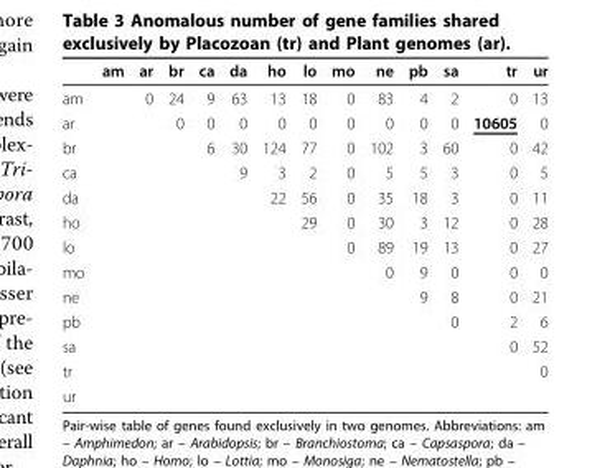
<table><thead><tr><td></td><td>am</td><td>ar</td><td>br</td><td>ca</td><td>da</td><td>ho</td><td>lo</td><td>mo</td><td>ne</td><td>pb</td><td>sa</td><td>tr</td><td>ur</td></tr></thead><tbody><tr><td>am</td><td></td><td>0</td><td>24</td><td>9</td><td>63</td><td>13</td><td>18</td><td>0</td><td>83</td><td>4</td><td>2</td><td>0</td><td>13</td></tr><tr><td>ar</td><td></td><td></td><td>0</td><td>0</td><td>0</td><td>0</td><td>0</td><td>0</td><td>0</td><td>0</td><td>0</td><td>10605</td><td>0</td></tr><tr><td>br</td><td></td><td></td><td></td><td>6</td><td>30</td><td>124</td><td>77</td><td>0</td><td>102</td><td>3</td><td>60</td><td>0</td><td>42</td></tr><tr><td>ca</td><td></td><td></td><td></td><td></td><td>9</td><td>3</td><td>2</td><td>0</td><td>5</td><td>5</td><td>3</td><td>0</td><td>5</td></tr><tr><td>da</td><td></td><td></td><td></td><td></td><td></td><td>22</td><td>56</td><td>0</td><td>35</td><td>18</td><td>3</td><td>0</td><td>11</td></tr><tr><td>ho</td><td></td><td></td><td></td><td></td><td></td><td></td><td>29</td><td>0</td><td>30</td><td>3</td><td>12</td><td>0</td><td>28</td></tr><tr><td>lo</td><td></td><td></td><td></td><td></td><td></td><td></td><td></td><td>0</td><td>89</td><td>19</td><td>13</td><td>0</td><td>27</td></tr><tr><td>mo</td><td></td><td></td><td></td><td></td><td></td><td></td><td></td><td></td><td>0</td><td>9</td><td>0</td><td>0</td><td>0</td></tr><tr><td>ne</td><td></td><td></td><td></td><td></td><td></td><td></td><td></td><td></td><td></td><td>9</td><td>8</td><td>0</td><td>21</td></tr><tr><td>pb</td><td></td><td></td><td></td><td></td><td></td><td></td><td></td><td></td><td></td><td></td><td>0</td><td>2</td><td>6</td></tr><tr><td>sa</td><td></td><td></td><td></td><td></td><td></td><td></td><td></td><td></td><td></td><td></td><td></td><td>0</td><td>52</td></tr><tr><td>tr</td><td></td><td></td><td></td><td></td><td></td><td></td><td></td><td></td><td></td><td></td><td></td><td></td><td>0</td></tr><tr><td>ur</td><td></td><td></td><td></td><td></td><td></td><td></td><td></td><td></td><td></td><td></td><td></td><td></td><td></td></tr></tbody></table>